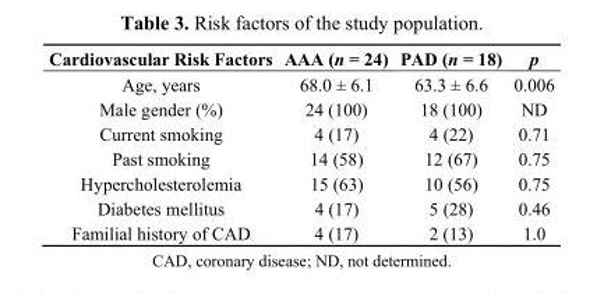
<table><thead><tr><td>Cardiovascular Risk Factors</td><td>AAA (n = 24)</td><td>PAD (n = 18)</td><td>p</td></tr></thead><tbody><tr><td>Age, years</td><td>68.0 ± 6.1</td><td>63.3 ± 6.6</td><td>0.006</td></tr><tr><td>Male gender (%)</td><td>24 (100)</td><td>18 (100)</td><td>ND</td></tr><tr><td>Current smoking</td><td>4 (17)</td><td>4 (22)</td><td>0.71</td></tr><tr><td>Past smoking</td><td>14 (58)</td><td>12 (67)</td><td>0.75</td></tr><tr><td>Hypercholesterolemia</td><td>15 (63)</td><td>10 (56)</td><td>0.75</td></tr><tr><td>Diabetes mellitus</td><td>4 (17)</td><td>5 (28)</td><td>0.46</td></tr><tr><td>Familial history of CAD</td><td>4 (17)</td><td>2 (13)</td><td>1.0</td></tr></tbody></table>